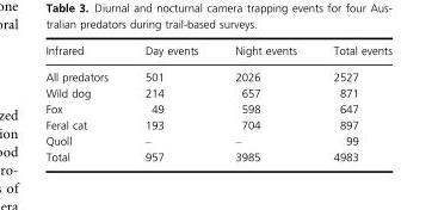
<table><thead><tr><td>Infrared</td><td>Day events</td><td>Night events</td><td>Total events</td></tr></thead><tbody><tr><td>All predators</td><td>501</td><td>2026</td><td>2527</td></tr><tr><td>Wild dog</td><td>214</td><td>657</td><td>871</td></tr><tr><td>Fox</td><td>49</td><td>598</td><td>647</td></tr><tr><td>Feral cat</td><td>193</td><td>704</td><td>897</td></tr><tr><td>Quoll</td><td>–</td><td>–</td><td>99</td></tr><tr><td>Total</td><td>957</td><td>3985</td><td>4983</td></tr></tbody></table>